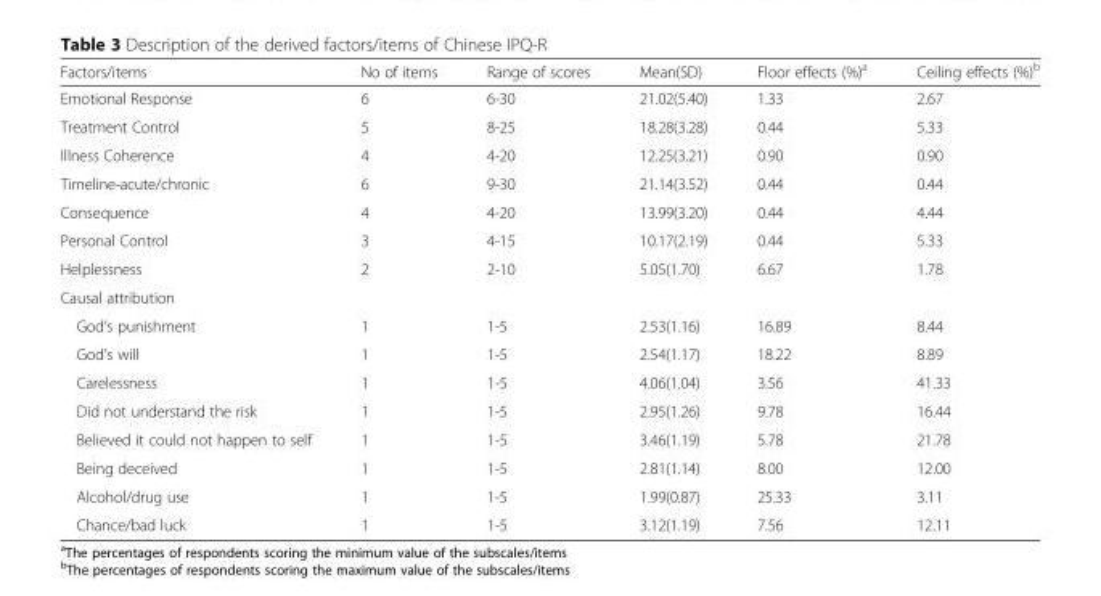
<table><thead><tr><td>Factors/items</td><td>No of items</td><td>Range of scores</td><td>Mean(SD)</td><td>Floor effects (%)<sup>a</sup></td><td>Ceiling effects (%)<sup>b</sup></td></tr></thead><tbody><tr><td>Emotional Response</td><td>6</td><td>6-30</td><td>21.02(5.40)</td><td>1.33</td><td>2.67</td></tr><tr><td>Treatment Control</td><td>5</td><td>8-25</td><td>18.28(3.28)</td><td>0.44</td><td>5.33</td></tr><tr><td>Illness Coherence</td><td>4</td><td>4-20</td><td>12.25(3.21)</td><td>0.90</td><td>0.90</td></tr><tr><td>Timeline-acute/chronic</td><td>6</td><td>9-30</td><td>21.14(3.52)</td><td>0.44</td><td>0.44</td></tr><tr><td>Consequence</td><td>4</td><td>4-20</td><td>13.99(3.20)</td><td>0.44</td><td>4.44</td></tr><tr><td>Personal Control</td><td>3</td><td>4-15</td><td>10.17(2.19)</td><td>0.44</td><td>5.33</td></tr><tr><td>Helplessness</td><td>2</td><td>2-10</td><td>5.05(1.70)</td><td>6.67</td><td>1.78</td></tr><tr><td colspan="6">Causal attribution</td></tr><tr><td>God’s punishment</td><td>1</td><td>1-5</td><td>2.53(1.16)</td><td>16.89</td><td>8.44</td></tr><tr><td>God’s will</td><td>1</td><td>1-5</td><td>2.54(1.17)</td><td>18.22</td><td>8.89</td></tr><tr><td>Carelessness</td><td>1</td><td>1-5</td><td>4.06(1.04)</td><td>3.56</td><td>41.33</td></tr><tr><td>Did not understand the risk</td><td>1</td><td>1-5</td><td>2.95(1.26)</td><td>9.78</td><td>16.44</td></tr><tr><td>Believed it could not happen to self</td><td>1</td><td>1-5</td><td>3.46(1.19)</td><td>5.78</td><td>21.78</td></tr><tr><td>Being deceived</td><td>1</td><td>1-5</td><td>2.81(1.14)</td><td>8.00</td><td>12.00</td></tr><tr><td>Alcohol/drug use</td><td>1</td><td>1-5</td><td>1.99(0.87)</td><td>25.33</td><td>3.11</td></tr><tr><td>Chance/bad luck</td><td>1</td><td>1-5</td><td>3.12(1.19)</td><td>7.56</td><td>12.11</td></tr></tbody></table>